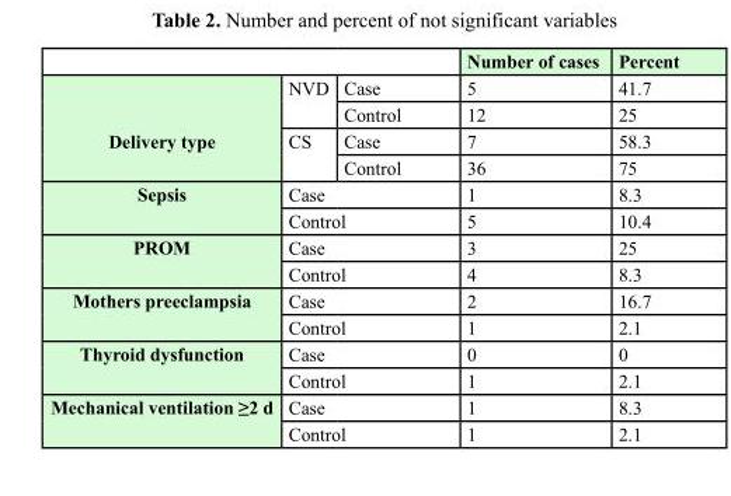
<table><thead><tr><td></td><td></td><td></td><td>Number of cases</td><td>Percent</td></tr></thead><tbody><tr><td rowspan="4">Delivery type</td><td rowspan="2">NVD</td><td>Case</td><td>5</td><td>41.7</td></tr><tr><td>Control</td><td>12</td><td>25</td></tr><tr><td rowspan="2">CS</td><td>Case</td><td>7</td><td>58.3</td></tr><tr><td>Control</td><td>36</td><td>75</td></tr><tr><td rowspan="2">Sepsis</td><td colspan="2">Case</td><td>1</td><td>8.3</td></tr><tr><td colspan="2">Control</td><td>5</td><td>10.4</td></tr><tr><td rowspan="2">PROM</td><td colspan="2">Case</td><td>3</td><td>25</td></tr><tr><td colspan="2">Control</td><td>4</td><td>8.3</td></tr><tr><td rowspan="2">Mothers preeclampsia</td><td colspan="2">Case</td><td>2</td><td>16.7</td></tr><tr><td colspan="2">Control</td><td>1</td><td>2.1</td></tr><tr><td rowspan="2">Thyroid dysfunction</td><td colspan="2">Case</td><td>0</td><td>0</td></tr><tr><td colspan="2">Control</td><td>1</td><td>2.1</td></tr><tr><td rowspan="2">Mechanical ventilation ≥2 d</td><td colspan="2">Case</td><td>1</td><td>8.3</td></tr><tr><td colspan="2">Control</td><td>1</td><td>2.1</td></tr></tbody></table>